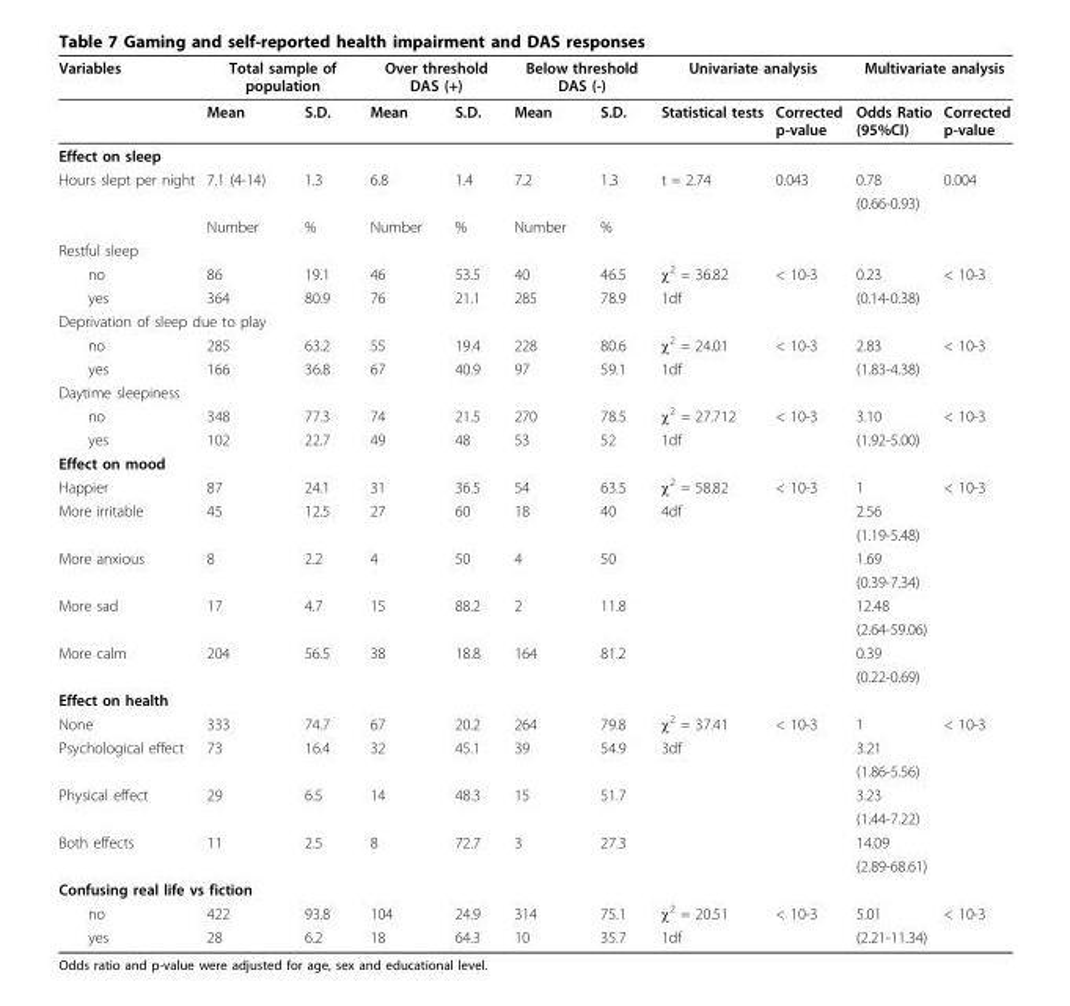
<table><thead><tr><td rowspan="2">Variables</td><td colspan="2">Total sample of population</td><td colspan="2">Over threshold DAS (+)</td><td colspan="2">Below threshold DAS (-)</td><td colspan="2">Univariate analysis</td><td colspan="2">Multivariate analysis</td></tr><tr><td>Mean</td><td>S.D.</td><td>Mean</td><td>S.D.</td><td>Mean</td><td>S.D.</td><td>Statistical tests</td><td>Corrected p-value</td><td>Odds Ratio (95%CI)</td><td>Corrected p-value</td></tr></thead><tbody><tr><td colspan="11">Effect on sleep</td></tr><tr><td rowspan="3">Hours slept per night</td><td>7.1 (4-14)</td><td>1.3</td><td>6.8</td><td>1.4</td><td>7.2</td><td>1.3</td><td>t = 2.74</td><td>0.043</td><td>0.78</td><td>0.004</td></tr><tr><td></td><td></td><td></td><td></td><td></td><td></td><td></td><td></td><td>(0.66-0.93)</td><td></td></tr><tr><td>Number</td><td>%</td><td>Number</td><td>%</td><td>Number</td><td>%</td><td></td><td></td><td></td><td></td></tr><tr><td colspan="11">Restful sleep</td></tr><tr><td>no</td><td>86</td><td>19.1</td><td>46</td><td>53.5</td><td>40</td><td>46.5</td><td>χ<sup>2</sup> = 36.82</td><td>&lt; 10-3</td><td>0.23</td><td>&lt; 10-3</td></tr><tr><td>yes</td><td>364</td><td>80.9</td><td>76</td><td>21.1</td><td>285</td><td>78.9</td><td>1df</td><td></td><td>(0.14-0.38)</td><td></td></tr><tr><td colspan="11">Deprivation of sleep due to play</td></tr><tr><td>no</td><td>285</td><td>63.2</td><td>55</td><td>19.4</td><td>228</td><td>80.6</td><td>χ<sup>2</sup> = 24.01</td><td>&lt; 10-3</td><td>2.83</td><td>&lt; 10-3</td></tr><tr><td>yes</td><td>166</td><td>36.8</td><td>67</td><td>40.9</td><td>97</td><td>59.1</td><td>1df</td><td></td><td>(1.83-4.38)</td><td></td></tr><tr><td colspan="11">Daytime sleepiness</td></tr><tr><td>no</td><td>348</td><td>77.3</td><td>74</td><td>21.5</td><td>270</td><td>78.5</td><td>χ<sup>2</sup> = 27.712</td><td>&lt; 10-3</td><td>3.10</td><td>&lt; 10-3</td></tr><tr><td>yes</td><td>102</td><td>22.7</td><td>49</td><td>48</td><td>53</td><td>52</td><td>1df</td><td></td><td>(1.92-5.00)</td><td></td></tr><tr><td colspan="11">Effect on mood</td></tr><tr><td>Happier</td><td>87</td><td>24.1</td><td>31</td><td>36.5</td><td>54</td><td>63.5</td><td>χ<sup>2</sup> = 58.82</td><td>&lt; 10-3</td><td>1</td><td>&lt; 10-3</td></tr><tr><td rowspan="2">More irritable</td><td>45</td><td>12.5</td><td>27</td><td>60</td><td>18</td><td>40</td><td>4df</td><td></td><td>2.56</td><td></td></tr><tr><td></td><td></td><td></td><td></td><td></td><td></td><td></td><td></td><td>(1.19-5.48)</td><td></td></tr><tr><td rowspan="2">More anxious</td><td>8</td><td>2.2</td><td>4</td><td>50</td><td>4</td><td>50</td><td></td><td></td><td>1.69</td><td></td></tr><tr><td></td><td></td><td></td><td></td><td></td><td></td><td></td><td></td><td>(0.39-7.34)</td><td></td></tr><tr><td rowspan="2">More sad</td><td>17</td><td>4.7</td><td>15</td><td>88.2</td><td>2</td><td>11.8</td><td></td><td></td><td>12.48</td><td></td></tr><tr><td></td><td></td><td></td><td></td><td></td><td></td><td></td><td></td><td>(2.64-59.06)</td><td></td></tr><tr><td rowspan="2">More calm</td><td>204</td><td>56.5</td><td>38</td><td>18.8</td><td>164</td><td>81.2</td><td></td><td></td><td>0.39</td><td></td></tr><tr><td></td><td></td><td></td><td></td><td></td><td></td><td></td><td></td><td>(0.22-0.69)</td><td></td></tr><tr><td colspan="11">Effect on health</td></tr><tr><td>None</td><td>333</td><td>74.7</td><td>67</td><td>20.2</td><td>264</td><td>79.8</td><td>χ<sup>2</sup> = 37.41</td><td>&lt; 10-3</td><td>1</td><td>&lt; 10-3</td></tr><tr><td rowspan="2">Psychological effect</td><td>73</td><td>16.4</td><td>32</td><td>45.1</td><td>39</td><td>54.9</td><td>3df</td><td></td><td>3.21</td><td></td></tr><tr><td></td><td></td><td></td><td></td><td></td><td></td><td></td><td></td><td>(1.86-5.56)</td><td></td></tr><tr><td rowspan="2">Physical effect</td><td>29</td><td>6.5</td><td>14</td><td>48.3</td><td>15</td><td>51.7</td><td></td><td></td><td>3.23</td><td></td></tr><tr><td></td><td></td><td></td><td></td><td></td><td></td><td></td><td></td><td>(1.44-7.22)</td><td></td></tr><tr><td rowspan="2">Both effects</td><td>11</td><td>2.5</td><td>8</td><td>72.7</td><td>3</td><td>27.3</td><td></td><td></td><td>14.09</td><td></td></tr><tr><td></td><td></td><td></td><td></td><td></td><td></td><td></td><td></td><td>(2.89-68.61)</td><td></td></tr><tr><td colspan="11">Confusing real life vs fiction</td></tr><tr><td>no</td><td>422</td><td>93.8</td><td>104</td><td>24.9</td><td>314</td><td>75.1</td><td>χ<sup>2</sup> = 20.51</td><td>&lt; 10-3</td><td>5.01</td><td>&lt; 10-3</td></tr><tr><td>yes</td><td>28</td><td>6.2</td><td>18</td><td>64.3</td><td>10</td><td>35.7</td><td>1df</td><td></td><td>(2.21-11.34)</td><td></td></tr></tbody></table>